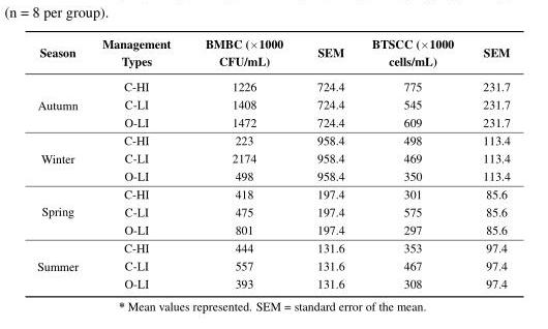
<table><thead><tr><td>Season</td><td>Management Types</td><td>BMBC (ˆ1000 CFU/mL)</td><td>SEM</td><td>BTSCC (ˆ1000 cells/mL)</td><td>SEM</td></tr></thead><tbody><tr><td rowspan="3">Autumn</td><td>C-HI</td><td>1226</td><td>724.4</td><td>775</td><td>231.7</td></tr><tr><td>C-LI</td><td>1408</td><td>724.4</td><td>545</td><td>231.7</td></tr><tr><td>O-LI</td><td>1472</td><td>724.4</td><td>609</td><td>231.7</td></tr><tr><td rowspan="3">Winter</td><td>C-HI</td><td>223</td><td>958.4</td><td>498</td><td>113.4</td></tr><tr><td>C-LI</td><td>2174</td><td>958.4</td><td>469</td><td>113.4</td></tr><tr><td>O-LI</td><td>498</td><td>958.4</td><td>350</td><td>113.4</td></tr><tr><td rowspan="3">Spring</td><td>C-HI</td><td>418</td><td>197.4</td><td>301</td><td>85.6</td></tr><tr><td>C-LI</td><td>475</td><td>197.4</td><td>575</td><td>85.6</td></tr><tr><td>O-LI</td><td>801</td><td>197.4</td><td>297</td><td>85.6</td></tr><tr><td rowspan="3">Summer</td><td>C-HI</td><td>444</td><td>131.6</td><td>353</td><td>97.4</td></tr><tr><td>C-LI</td><td>557</td><td>131.6</td><td>467</td><td>97.4</td></tr><tr><td>O-LI</td><td>393</td><td>131.6</td><td>308</td><td>97.4</td></tr></tbody></table>